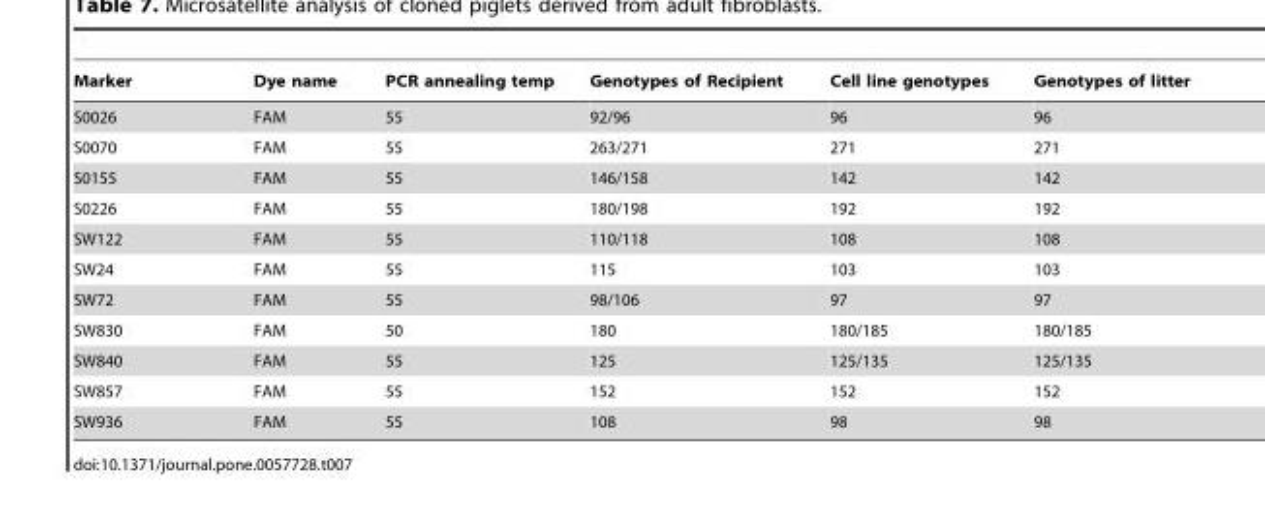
<table><thead><tr><td>Marker</td><td>Dye name</td><td>PCR annealing temp</td><td>Genotypes of Recipient</td><td>Cell line genotypes</td><td>Genotypes of litter</td></tr></thead><tbody><tr><td>S0026</td><td>FAM</td><td>55</td><td>92/96</td><td>96</td><td>96</td></tr><tr><td>S0070</td><td>FAM</td><td>55</td><td>263/271</td><td>271</td><td>271</td></tr><tr><td>S0155</td><td>FAM</td><td>55</td><td>146/158</td><td>142</td><td>142</td></tr><tr><td>S0226</td><td>FAM</td><td>55</td><td>180/198</td><td>192</td><td>192</td></tr><tr><td>SW122</td><td>FAM</td><td>55</td><td>110/118</td><td>108</td><td>108</td></tr><tr><td>SW24</td><td>FAM</td><td>55</td><td>115</td><td>103</td><td>103</td></tr><tr><td>SW72</td><td>FAM</td><td>55</td><td>98/106</td><td>97</td><td>97</td></tr><tr><td>SW830</td><td>FAM</td><td>50</td><td>180</td><td>180/185</td><td>180/185</td></tr><tr><td>SW840</td><td>FAM</td><td>55</td><td>125</td><td>125/135</td><td>125/135</td></tr><tr><td>SW857</td><td>FAM</td><td>55</td><td>152</td><td>152</td><td>152</td></tr><tr><td>SW936</td><td>FAM</td><td>55</td><td>108</td><td>98</td><td>98</td></tr></tbody></table>